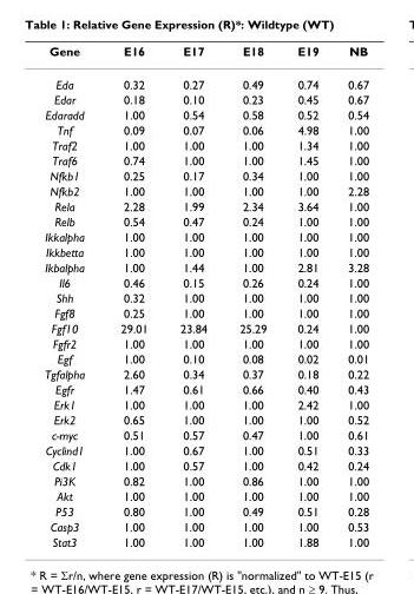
<table><thead><tr><td>Gene</td><td>E16</td><td>E17</td><td>E18</td><td>E19</td><td>NB</td></tr></thead><tbody><tr><td>Eda</td><td>0.32</td><td>0.27</td><td>0.49</td><td>0.74</td><td>0.67</td></tr><tr><td>Edar</td><td>0.18</td><td>0.10</td><td>0.23</td><td>0.45</td><td>0.67</td></tr><tr><td>Edaradd</td><td>1.00</td><td>0.54</td><td>0.58</td><td>0.52</td><td>0.54</td></tr><tr><td>Tnf</td><td>0.09</td><td>0.07</td><td>0.06</td><td>4.98</td><td>1.00</td></tr><tr><td>Traf2</td><td>1.00</td><td>1.00</td><td>1.00</td><td>1.34</td><td>1.00</td></tr><tr><td>Traf6</td><td>0.74</td><td>1.00</td><td>1.00</td><td>1.45</td><td>1.00</td></tr><tr><td>Nfkb1</td><td>0.25</td><td>0.17</td><td>0.34</td><td>1.00</td><td>1.00</td></tr><tr><td>Nfkb2</td><td>1.00</td><td>1.00</td><td>1.00</td><td>1.00</td><td>2.28</td></tr><tr><td>Rela</td><td>2.28</td><td>1.99</td><td>2.34</td><td>3.64</td><td>1.00</td></tr><tr><td>Relb</td><td>0.54</td><td>0.47</td><td>0.24</td><td>1.00</td><td>1.00</td></tr><tr><td>Ikkalpha</td><td>1.00</td><td>1.00</td><td>1.00</td><td>1.00</td><td>1.00</td></tr><tr><td>Ikkbetta</td><td>1.00</td><td>1.00</td><td>1.00</td><td>1.00</td><td>1.00</td></tr><tr><td>Ikbalpha</td><td>1.00</td><td>1.44</td><td>1.00</td><td>2.81</td><td>3.28</td></tr><tr><td>Il6</td><td>0.46</td><td>0.15</td><td>0.26</td><td>0.24</td><td>1.00</td></tr><tr><td>Shh</td><td>0.32</td><td>1.00</td><td>1.00</td><td>1.00</td><td>1.00</td></tr><tr><td>Fgf8</td><td>0.25</td><td>1.00</td><td>1.00</td><td>1.00</td><td>1.00</td></tr><tr><td>Fgf10</td><td>29.01</td><td>23.84</td><td>25.29</td><td>0.24</td><td>1.00</td></tr><tr><td>Fgfr2</td><td>1.00</td><td>1.00</td><td>1.00</td><td>1.00</td><td>1.00</td></tr><tr><td>Egf</td><td>1.00</td><td>0.10</td><td>0.08</td><td>0.02</td><td>0.01</td></tr><tr><td>Tgfalpha</td><td>2.60</td><td>0.34</td><td>0.37</td><td>0.18</td><td>0.22</td></tr><tr><td>Egfr</td><td>1.47</td><td>0.61</td><td>0.66</td><td>0.40</td><td>0.43</td></tr><tr><td>Erk1</td><td>1.00</td><td>1.00</td><td>1.00</td><td>2.42</td><td>1.00</td></tr><tr><td>Erk2</td><td>0.65</td><td>1.00</td><td>1.00</td><td>1.00</td><td>0.52</td></tr><tr><td>c-myc</td><td>0.51</td><td>0.57</td><td>0.47</td><td>1.00</td><td>0.61</td></tr><tr><td>Cyclind1</td><td>1.00</td><td>0.67</td><td>1.00</td><td>0.51</td><td>0.33</td></tr><tr><td>Cdk1</td><td>1.00</td><td>0.57</td><td>1.00</td><td>0.42</td><td>0.24</td></tr><tr><td>Pi3K</td><td>0.82</td><td>1.00</td><td>0.86</td><td>1.00</td><td>1.00</td></tr><tr><td>Akt</td><td>1.00</td><td>1.00</td><td>1.00</td><td>1.00</td><td>1.00</td></tr><tr><td>P53</td><td>0.80</td><td>1.00</td><td>0.49</td><td>0.51</td><td>0.28</td></tr><tr><td>Casp3</td><td>1.00</td><td>1.00</td><td>1.00</td><td>1.00</td><td>0.53</td></tr><tr><td>Stat3</td><td>1.00</td><td>1.00</td><td>1.00</td><td>1.88</td><td>1.00</td></tr></tbody></table>